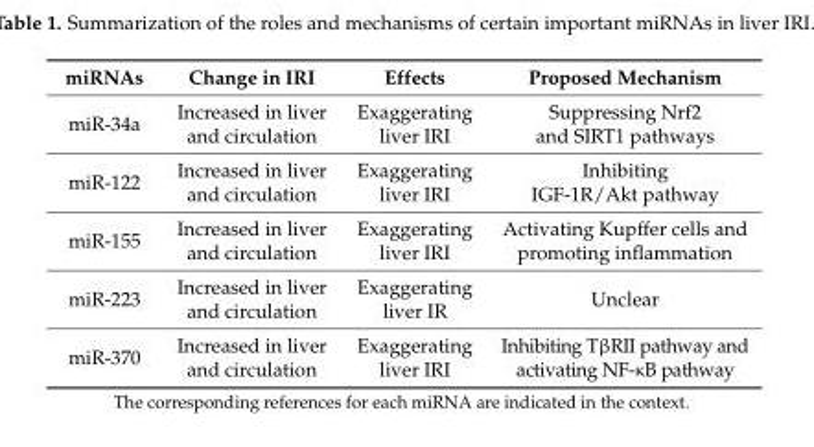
<table><thead><tr><td>miRNAs</td><td>Change in IRI</td><td>Effects</td><td>Proposed Mechanism</td></tr></thead><tbody><tr><td>miR-34a</td><td>Increased in liver and circulation</td><td>Exaggerating liver IRI</td><td>Suppressing Nrf2 and SIRT1 pathways</td></tr><tr><td>miR-122</td><td>Increased in liver and circulation</td><td>Exaggerating liver IRI</td><td>Inhibiting IGF-1R/Akt pathway</td></tr><tr><td>miR-155</td><td>Increased in liver and circulation</td><td>Exaggerating liver IRI</td><td>Activating Kupffer cells and promoting inflammation</td></tr><tr><td>miR-223</td><td>Increased in liver and circulation</td><td>Exaggerating liver IR</td><td>Unclear</td></tr><tr><td>miR-370</td><td>Increased in liver and circulation</td><td>Exaggerating liver IRI</td><td>Inhibiting TβRII pathway and activating NF-κB pathway</td></tr></tbody></table>